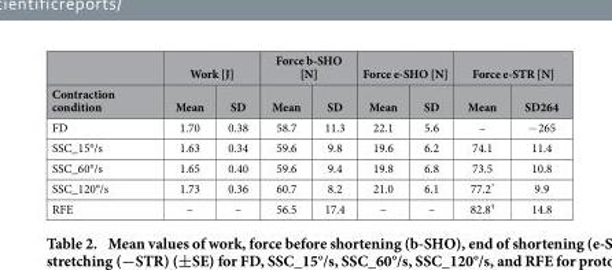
<table><thead><tr><td rowspan="2">Contraction condition</td><td colspan="2">Work [J]</td><td colspan="2">Force b-SHO [N]</td><td colspan="2">Force e-SHO [N]</td><td colspan="2">Force e-STR [N]</td></tr><tr><td>Mean</td><td>SD</td><td>Mean</td><td>SD</td><td>Mean</td><td>SD</td><td>Mean</td><td>SD264</td></tr></thead><tbody><tr><td>FD</td><td>1.70</td><td>0.38</td><td>58.7</td><td>11.3</td><td>22.1</td><td>5.6</td><td>–</td><td>− 265</td></tr><tr><td>SSC_15°/s</td><td>1.63</td><td>0.34</td><td>59.6</td><td>9.8</td><td>19.6</td><td>6.2</td><td>74.1</td><td>11.4</td></tr><tr><td>SSC_60°/s</td><td>1.65</td><td>0.40</td><td>59.6</td><td>9.4</td><td>19.8</td><td>6.8</td><td>73.5</td><td>10.8</td></tr><tr><td>SSC_120°/s</td><td>1.73</td><td>0.36</td><td>60.7</td><td>8.2</td><td>21.0</td><td>6.1</td><td>77.2*</td><td>9.9</td></tr><tr><td>RFE</td><td>–</td><td>–</td><td>56.5</td><td>17.4</td><td>–</td><td>–</td><td>82.8†</td><td>14.8</td></tr></tbody></table>